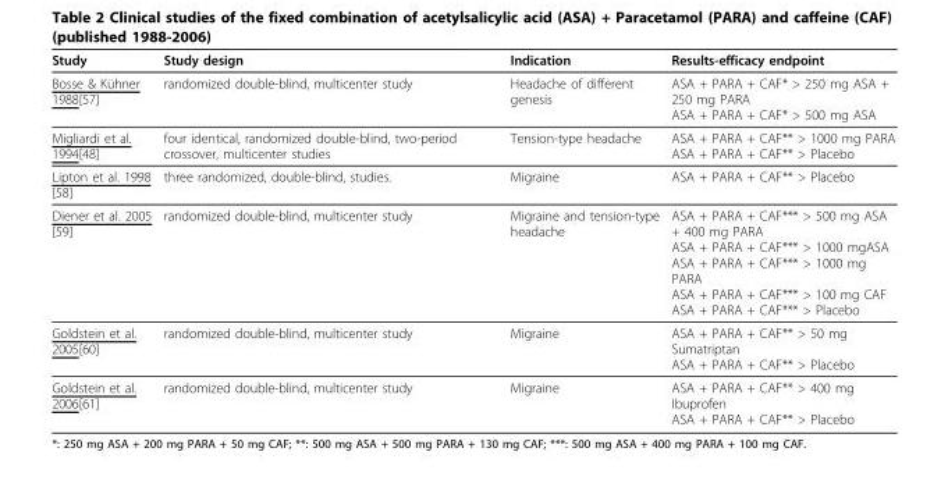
<table><thead><tr><td>Study</td><td>Study design</td><td>Indication</td><td>Results-efficacy endpoint</td></tr></thead><tbody><tr><td>Bosse &amp; Kühner 1988[57]</td><td>randomized double-blind, multicenter study</td><td>Headache of different genesis</td><td>ASA + PARA + CAF* &gt; 250 mg ASA + 250 mg PARA ASA + PARA + CAF* &gt; 500 mg ASA</td></tr><tr><td>Migliardi et al. 1994[48]</td><td>four identical, randomized double-blind, two-period crossover, multicenter studies</td><td>Tension-type headache</td><td>ASA + PARA + CAF** &gt; 1000 mg PARA ASA + PARA + CAF** &gt; Placebo</td></tr><tr><td>Lipton et al. 1998 [58]</td><td>three randomized, double-blind, studies.</td><td>Migraine</td><td>ASA + PARA + CAF** &gt; Placebo</td></tr><tr><td>Diener et al. 2005 [59]</td><td>randomized double-blind, multicenter study</td><td>Migraine and tension-type headache</td><td>ASA + PARA + CAF*** &gt; 500 mg ASA + 400 mg PARA ASA + PARA + CAF*** &gt; 1000 mgASA ASA + PARA + CAF*** &gt; 1000 mg PARA ASA + PARA + CAF*** &gt; 100 mg CAF ASA + PARA + CAF*** &gt; Placebo</td></tr><tr><td>Goldstein et al. 2005[60]</td><td>randomized double-blind, multicenter study</td><td>Migraine</td><td>ASA + PARA + CAF** &gt; 50 mg Sumatriptan ASA + PARA + CAF** &gt; Placebo</td></tr><tr><td>Goldstein et al. 2006[61]</td><td>randomized double-blind, multicenter study</td><td>Migraine</td><td>ASA + PARA + CAF** &gt; 400 mg Ibuprofen ASA + PARA + CAF** &gt; Placebo</td></tr></tbody></table>